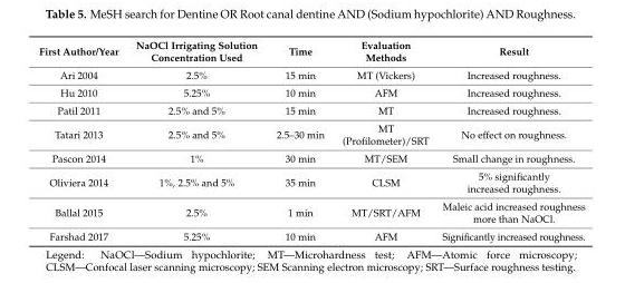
<table><thead><tr><td>First Author/Year</td><td>NaOCl Irrigating Solution Concentration Used</td><td>Time</td><td>Evaluation Methods</td><td>Result</td></tr></thead><tbody><tr><td>Ari 2004</td><td>2.5%</td><td>15 min</td><td>MT (Vickers)</td><td>Increased roughness.</td></tr><tr><td>Hu 2010</td><td>5.25%</td><td>10 min</td><td>AFM</td><td>Increased roughness.</td></tr><tr><td>Patil 2011</td><td>2.5% and 5%</td><td>15 min</td><td>MT</td><td>Increased roughness.</td></tr><tr><td>Tatari 2013</td><td>2.5% and 5%</td><td>2.5–30 min</td><td>MT (Profilometer)/SRT</td><td>No effect on roughness.</td></tr><tr><td>Pascon 2014</td><td>1%</td><td>30 min</td><td>MT/SEM</td><td>Small change in roughness.</td></tr><tr><td>Oliviera 2014</td><td>1%, 2.5% and 5%</td><td>35 min</td><td>CLSM</td><td>5% significantly increased roughness.</td></tr><tr><td>Ballal 2015</td><td>2.5%</td><td>1 min</td><td>MT/SRT/AFM</td><td>Maleic acid increased roughness more than NaOCl.</td></tr><tr><td>Farshad 2017</td><td>5.25%</td><td>10 min</td><td>AFM</td><td>Significantly increased roughness.</td></tr></tbody></table>